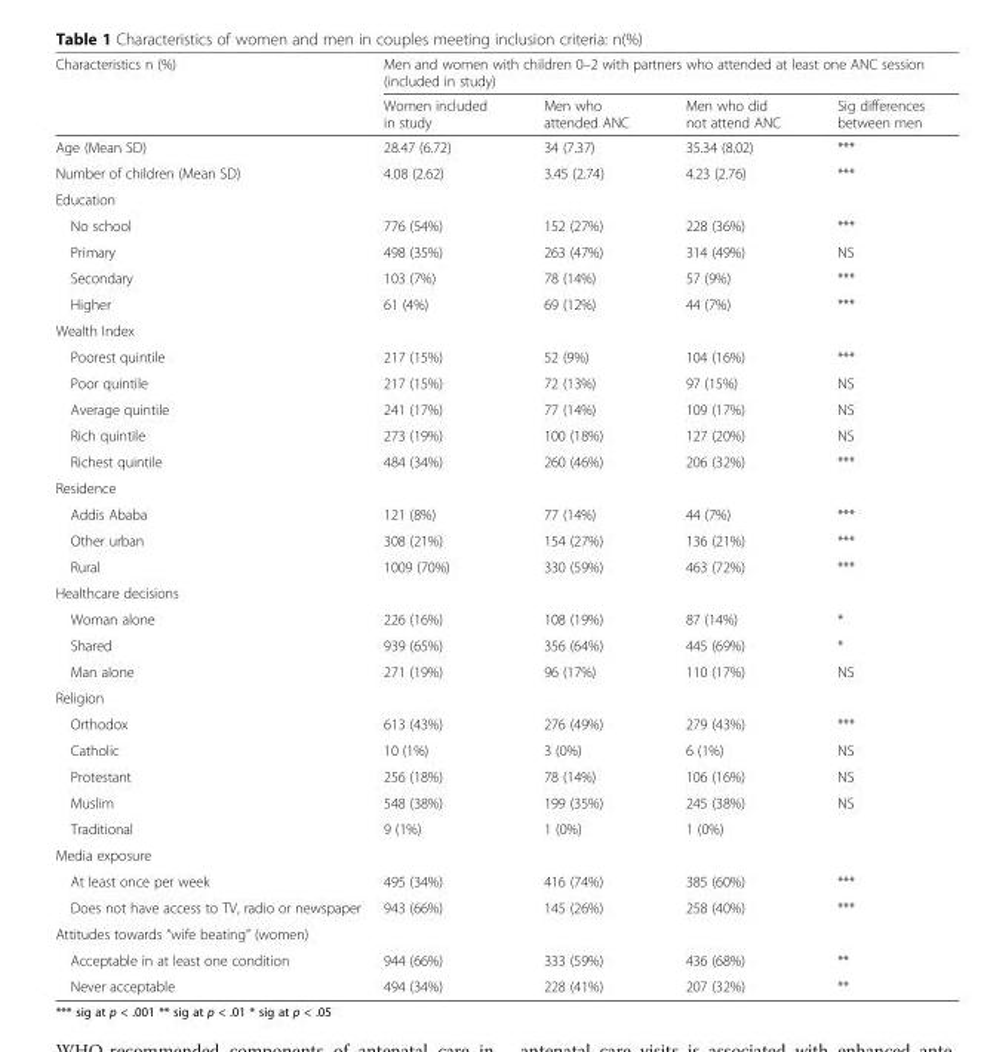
<table><thead><tr><td rowspan="2">Characteristics n (%)</td><td colspan="4">Men and women with children 0–2 with partners who attended at least one ANC session (included in study)</td></tr><tr><td>Women included in study</td><td>Men who attended ANC</td><td>Men who did not attend ANC</td><td>Sig differences between men</td></tr></thead><tbody><tr><td>Age (Mean SD)</td><td>28.47 (6.72)</td><td>34 (7.37)</td><td>35.34 (8.02)</td><td>***</td></tr><tr><td>Number of children (Mean SD)</td><td>4.08 (2.62)</td><td>3.45 (2.74)</td><td>4.23 (2.76)</td><td>***</td></tr><tr><td colspan="5">Education</td></tr><tr><td>No school</td><td>776 (54%)</td><td>152 (27%)</td><td>228 (36%)</td><td>***</td></tr><tr><td>Primary</td><td>498 (35%)</td><td>263 (47%)</td><td>314 (49%)</td><td>NS</td></tr><tr><td>Secondary</td><td>103 (7%)</td><td>78 (14%)</td><td>57 (9%)</td><td>***</td></tr><tr><td>Higher</td><td>61 (4%)</td><td>69 (12%)</td><td>44 (7%)</td><td>***</td></tr><tr><td colspan="5">Wealth Index</td></tr><tr><td>Poorest quintile</td><td>217 (15%)</td><td>52 (9%)</td><td>104 (16%)</td><td>***</td></tr><tr><td>Poor quintile</td><td>217 (15%)</td><td>72 (13%)</td><td>97 (15%)</td><td>NS</td></tr><tr><td>Average quintile</td><td>241 (17%)</td><td>77 (14%)</td><td>109 (17%)</td><td>NS</td></tr><tr><td>Rich quintile</td><td>273 (19%)</td><td>100 (18%)</td><td>127 (20%)</td><td>NS</td></tr><tr><td>Richest quintile</td><td>484 (34%)</td><td>260 (46%)</td><td>206 (32%)</td><td>***</td></tr><tr><td colspan="5">Residence</td></tr><tr><td>Addis Ababa</td><td>121 (8%)</td><td>77 (14%)</td><td>44 (7%)</td><td>***</td></tr><tr><td>Other urban</td><td>308 (21%)</td><td>154 (27%)</td><td>136 (21%)</td><td>***</td></tr><tr><td>Rural</td><td>1009 (70%)</td><td>330 (59%)</td><td>463 (72%)</td><td>***</td></tr><tr><td colspan="5">Healthcare decisions</td></tr><tr><td>Woman alone</td><td>226 (16%)</td><td>108 (19%)</td><td>87 (14%)</td><td>*</td></tr><tr><td>Shared</td><td>939 (65%)</td><td>356 (64%)</td><td>445 (69%)</td><td>*</td></tr><tr><td>Man alone</td><td>271 (19%)</td><td>96 (17%)</td><td>110 (17%)</td><td>NS</td></tr><tr><td colspan="5">Religion</td></tr><tr><td>Orthodox</td><td>613 (43%)</td><td>276 (49%)</td><td>279 (43%)</td><td>***</td></tr><tr><td>Catholic</td><td>10 (1%)</td><td>3 (0%)</td><td>6 (1%)</td><td>NS</td></tr><tr><td>Protestant</td><td>256 (18%)</td><td>78 (14%)</td><td>106 (16%)</td><td>NS</td></tr><tr><td>Muslim</td><td>548 (38%)</td><td>199 (35%)</td><td>245 (38%)</td><td>NS</td></tr><tr><td>Traditional</td><td>9 (1%)</td><td>1 (0%)</td><td>1 (0%)</td><td></td></tr><tr><td colspan="5">Media exposure</td></tr><tr><td>At least once per week</td><td>495 (34%)</td><td>416 (74%)</td><td>385 (60%)</td><td>***</td></tr><tr><td>Does not have access to TV, radio or newspaper</td><td>943 (66%)</td><td>145 (26%)</td><td>258 (40%)</td><td>***</td></tr><tr><td colspan="5">Attitudes towards “wife beating” (women)</td></tr><tr><td>Acceptable in at least one condition</td><td>944 (66%)</td><td>333 (59%)</td><td>436 (68%)</td><td>**</td></tr><tr><td>Never acceptable</td><td>494 (34%)</td><td>228 (41%)</td><td>207 (32%)</td><td>**</td></tr></tbody></table>